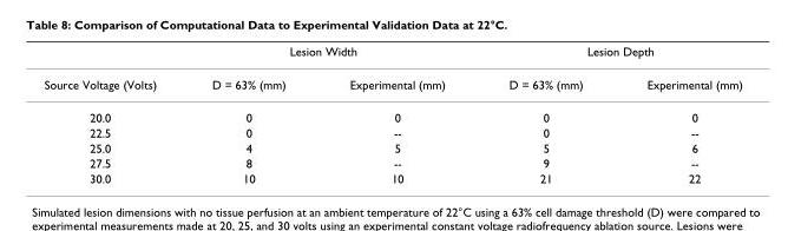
<table><thead><tr><td rowspan="2">Source Voltage (Volts)</td><td colspan="2">Lesion Width</td><td colspan="2">Lesion Depth</td></tr><tr><td>D = 63% (mm)</td><td>Experimental (mm)</td><td>D = 63% (mm)</td><td>Experimental (mm)</td></tr></thead><tbody><tr><td>20.0</td><td>0</td><td>0</td><td>0</td><td>0</td></tr><tr><td>22.5</td><td>0</td><td>--</td><td>0</td><td>--</td></tr><tr><td>25.0</td><td>4</td><td>5</td><td>5</td><td>6</td></tr><tr><td>27.5</td><td>8</td><td>--</td><td>9</td><td>--</td></tr><tr><td>30.0</td><td>10</td><td>10</td><td>21</td><td>22</td></tr></tbody></table>